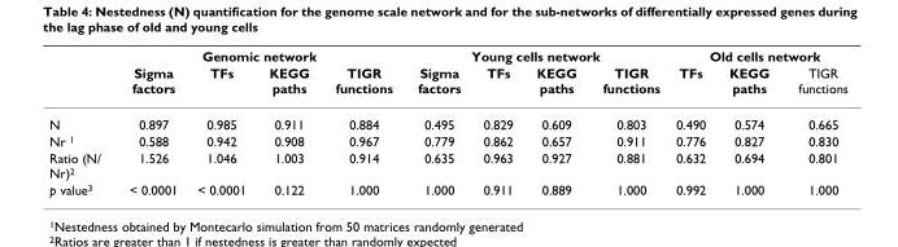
<table><thead><tr><td rowspan="2"></td><td colspan="4">Genomic network</td><td colspan="4">Young cells network</td><td colspan="3">Old cells network</td></tr><tr><td>Sigma factors</td><td>TFs</td><td>KEGG paths</td><td>TIGR functions</td><td>Sigma factors</td><td>TFs</td><td>KEGG paths</td><td>TIGR functions</td><td>TFs</td><td>KEGG paths</td><td>TIGR functions</td></tr></thead><tbody><tr><td>N</td><td>0.897</td><td>0.985</td><td>0.911</td><td>0.884</td><td>0.495</td><td>0.829</td><td>0.609</td><td>0.803</td><td>0.490</td><td>0.574</td><td>0.665</td></tr><tr><td>Nr <sup>1</sup></td><td>0.588</td><td>0.942</td><td>0.908</td><td>0.967</td><td>0.779</td><td>0.862</td><td>0.657</td><td>0.911</td><td>0.776</td><td>0.827</td><td>0.830</td></tr><tr><td>Ratio (N/ Nr)<sup>2</sup></td><td>1.526</td><td>1.046</td><td>1.003</td><td>0.914</td><td>0.635</td><td>0.963</td><td>0.927</td><td>0.881</td><td>0.632</td><td>0.694</td><td>0.801</td></tr><tr><td>p value<sup>3</sup></td><td>&lt; 0.0001</td><td>&lt; 0.0001</td><td>0.122</td><td>1.000</td><td>1.000</td><td>0.911</td><td>0.889</td><td>1.000</td><td>0.992</td><td>1.000</td><td>1.000</td></tr></tbody></table>